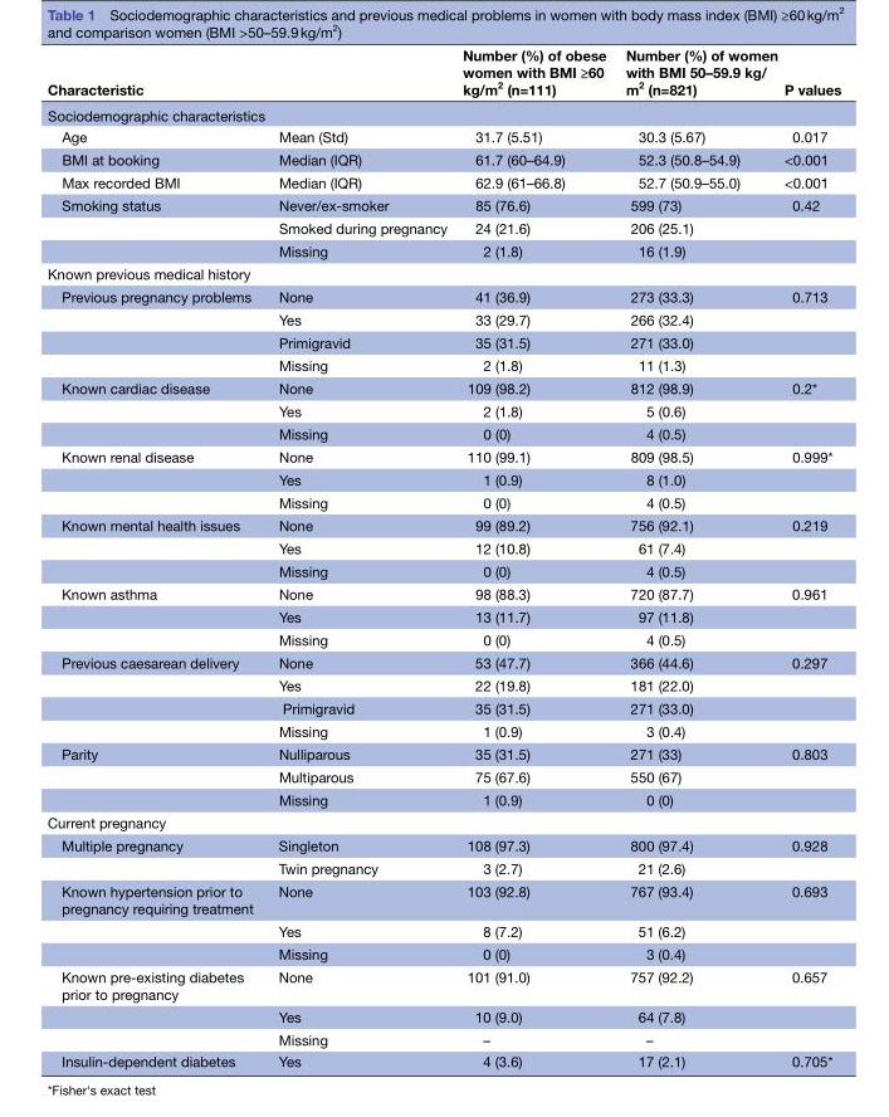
<table><thead><tr><td>Characteristic</td><td></td><td>Number (%) of obese women with BMI ≥60 kg/m<sup>2</sup> (n=111)</td><td>Number (%) of women with BMI 50–59.9 kg/ m<sup>2</sup> (n=821)</td><td>P values</td></tr></thead><tbody><tr><td colspan="5">Sociodemographic characteristics</td></tr><tr><td>Age</td><td>Mean (Std)</td><td>31.7 (5.51)</td><td>30.3 (5.67)</td><td>0.017</td></tr><tr><td>BMI at booking</td><td>Median (IQR)</td><td>61.7 (60–64.9)</td><td>52.3 (50.8–54.9)</td><td>&lt;0.001</td></tr><tr><td>Max recorded BMI</td><td>Median (IQR)</td><td>62.9 (61–66.8)</td><td>52.7 (50.9–55.0)</td><td>&lt;0.001</td></tr><tr><td rowspan="3">Smoking status</td><td>Never/ex-smoker</td><td>85 (76.6)</td><td>599 (73)</td><td>0.42</td></tr><tr><td>Smoked during pregnancy</td><td>24 (21.6)</td><td>206 (25.1)</td><td></td></tr><tr><td>Missing</td><td>2 (1.8)</td><td>16 (1.9)</td><td></td></tr><tr><td colspan="5">Known previous medical history</td></tr><tr><td rowspan="4">Previous pregnancy problems</td><td>None</td><td>41 (36.9)</td><td>273 (33.3)</td><td>0.713</td></tr><tr><td>Yes</td><td>33 (29.7)</td><td>266 (32.4)</td><td></td></tr><tr><td>Primigravid</td><td>35 (31.5)</td><td>271 (33.0)</td><td></td></tr><tr><td>Missing</td><td>2 (1.8)</td><td>11 (1.3)</td><td></td></tr><tr><td rowspan="3">Known cardiac disease</td><td>None</td><td>109 (98.2)</td><td>812 (98.9)</td><td>0.2*</td></tr><tr><td>Yes</td><td>2 (1.8)</td><td>5 (0.6)</td><td></td></tr><tr><td>Missing</td><td>0 (0)</td><td>4 (0.5)</td><td></td></tr><tr><td rowspan="3">Known renal disease</td><td>None</td><td>110 (99.1)</td><td>809 (98.5)</td><td>0.999*</td></tr><tr><td>Yes</td><td>1 (0.9)</td><td>8 (1.0)</td><td></td></tr><tr><td>Missing</td><td>0 (0)</td><td>4 (0.5)</td><td></td></tr><tr><td rowspan="3">Known mental health issues</td><td>None</td><td>99 (89.2)</td><td>756 (92.1)</td><td>0.219</td></tr><tr><td>Yes</td><td>12 (10.8)</td><td>61 (7.4)</td><td></td></tr><tr><td>Missing</td><td>0 (0)</td><td>4 (0.5)</td><td></td></tr><tr><td rowspan="3">Known asthma</td><td>None</td><td>98 (88.3)</td><td>720 (87.7)</td><td>0.961</td></tr><tr><td>Yes</td><td>13 (11.7)</td><td>97 (11.8)</td><td></td></tr><tr><td>Missing</td><td>0 (0)</td><td>4 (0.5)</td><td></td></tr><tr><td rowspan="4">Previous caesarean delivery</td><td>None</td><td>53 (47.7)</td><td>366 (44.6)</td><td>0.297</td></tr><tr><td>Yes</td><td>22 (19.8)</td><td>181 (22.0)</td><td></td></tr><tr><td>Primigravid</td><td>35 (31.5)</td><td>271 (33.0)</td><td></td></tr><tr><td>Missing</td><td>1 (0.9)</td><td>3 (0.4)</td><td></td></tr><tr><td rowspan="3">Parity</td><td>Nulliparous</td><td>35 (31.5)</td><td>271 (33)</td><td>0.803</td></tr><tr><td>Multiparous</td><td>75 (67.6)</td><td>550 (67)</td><td></td></tr><tr><td>Missing</td><td>1 (0.9)</td><td>0 (0)</td><td></td></tr><tr><td colspan="5">Current pregnancy</td></tr><tr><td rowspan="2">Multiple pregnancy</td><td>Singleton</td><td>108 (97.3)</td><td>800 (97.4)</td><td>0.928</td></tr><tr><td>Twin pregnancy</td><td>3 (2.7)</td><td>21 (2.6)</td><td></td></tr><tr><td rowspan="3">Known hypertension prior to pregnancy requiring treatment</td><td>None</td><td>103 (92.8)</td><td>767 (93.4)</td><td>0.693</td></tr><tr><td>Yes</td><td>8 (7.2)</td><td>51 (6.2)</td><td></td></tr><tr><td>Missing</td><td>0 (0)</td><td>3 (0.4)</td><td></td></tr><tr><td rowspan="3">Known pre-existing diabetes prior to pregnancy</td><td>None</td><td>101 (91.0)</td><td>757 (92.2)</td><td>0.657</td></tr><tr><td>Yes</td><td>10 (9.0)</td><td>64 (7.8)</td><td></td></tr><tr><td>Missing</td><td>–</td><td>–</td><td></td></tr><tr><td>Insulin-dependent diabetes</td><td>Yes</td><td>4 (3.6)</td><td>17 (2.1)</td><td>0.705*</td></tr></tbody></table>